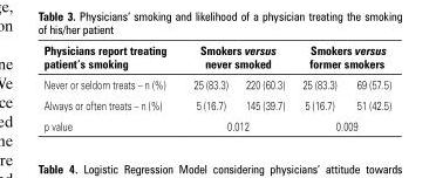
<table><thead><tr><td rowspan="2">Physicians report treating patient’s smoking Never or seldom treats – n (%)</td><td colspan="2">Smokers versus never smoked</td><td colspan="2">Smokers versus former smokers</td></tr><tr><td>25 (83.3)</td><td>220 (60.3)</td><td>25 (83.3)</td><td>69 (57.5)</td></tr></thead><tbody><tr><td>Always or often treats – n (%)</td><td>5 (16.7)</td><td>145 (39.7)</td><td>5 (16.7)</td><td>51 (42.5)</td></tr><tr><td>p value</td><td colspan="2">0.012</td><td colspan="2">0.009</td></tr></tbody></table>